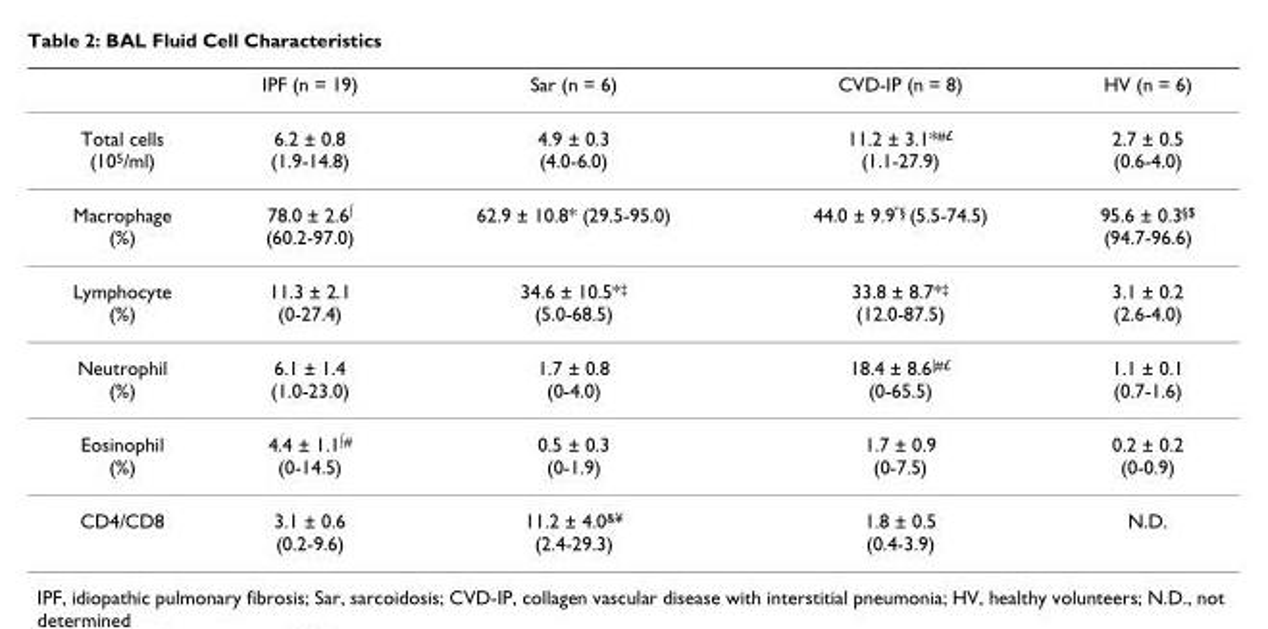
<table><thead><tr><td></td><td>IPF (n = 19)</td><td>Sar (n = 6)</td><td>CVD-IP (n = 8)</td><td>HV (n = 6)</td></tr></thead><tbody><tr><td>Total cells (10<sup>5</sup>/ml)</td><td>6.2 ± 0.8 (1.9-14.8)</td><td>4.9 ± 0.3 (4.0-6.0)</td><td>11.2 ± 3.1*<sup>#£</sup> (1.1-27.9)</td><td>2.7 ± 0.5 (0.6-4.0)</td></tr><tr><td>Macrophage (%)</td><td>78.0 ± 2.6<sup>∫</sup> (60.2-97.0)</td><td>62.9 ± 10.8* (29.5-95.0)</td><td>44.0 ± 9.9<sup>&quot;§</sup> (5.5-74.5)</td><td>95.6 ± 0.3<sup>§$</sup> (94.7-96.6)</td></tr><tr><td>Lymphocyte (%)</td><td>11.3 ± 2.1 (0-27.4)</td><td>34.6 ± 10.5*<sup>‡</sup> (5.0-68.5)</td><td>33.8 ± 8.7*<sup>‡</sup> (12.0-87.5)</td><td>3.1 ± 0.2 (2.6-4.0)</td></tr><tr><td>Neutrophil (%)</td><td>6.1 ± 1.4 (1.0-23.0)</td><td>1.7 ± 0.8 (0-4.0)</td><td>18.4 ± 8.6<sup>|#£</sup> (0-65.5)</td><td>1.1 ± 0.1 (0.7-1.6)</td></tr><tr><td>Eosinophil (%)</td><td>4.4 ± 1.1<sup>∫#</sup> (0-14.5)</td><td>0.5 ± 0.3 (0-1.9)</td><td>1.7 ± 0.9 (0-7.5)</td><td>0.2 ± 0.2 (0-0.9)</td></tr><tr><td>CD4/CD8</td><td>3.1 ± 0.6 (0.2-9.6)</td><td>11.2 ± 4.0<sup>&amp;¥</sup> (2.4-29.3)</td><td>1.8 ± 0.5 (0.4-3.9)</td><td>N.D.</td></tr></tbody></table>